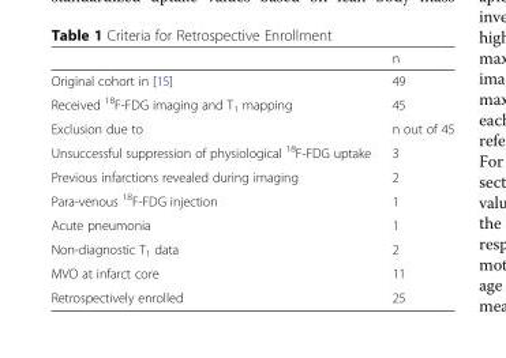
<table><thead><tr><td></td><td>n</td></tr></thead><tbody><tr><td>Original cohort in [15]</td><td>49</td></tr><tr><td>Received <sup>18</sup>F-FDG imaging and T<sub>1</sub> mapping</td><td>45</td></tr><tr><td>Exclusion due to</td><td>n out of 45</td></tr><tr><td>Unsuccessful suppression of physiological <sup>18</sup>F-FDG uptake</td><td>3</td></tr><tr><td>Previous infarctions revealed during imaging</td><td>2</td></tr><tr><td>Para-venous <sup>18</sup>F-FDG injection</td><td>1</td></tr><tr><td>Acute pneumonia</td><td>1</td></tr><tr><td>Non-diagnostic T<sub>1</sub> data</td><td>2</td></tr><tr><td>MVO at infarct core</td><td>11</td></tr><tr><td>Retrospectively enrolled</td><td>25</td></tr></tbody></table>